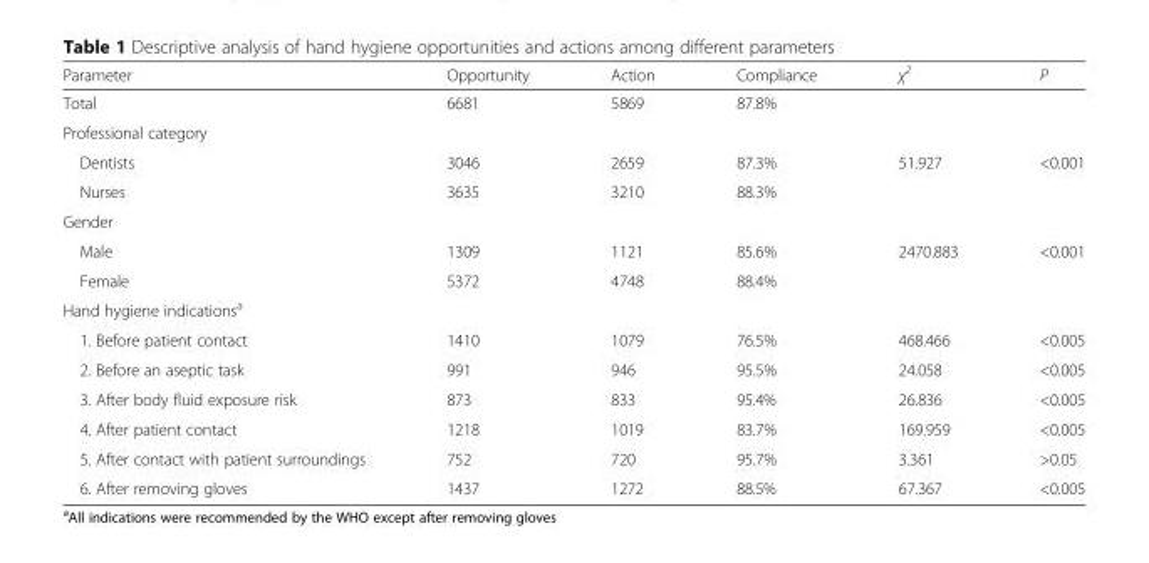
<table><thead><tr><td>Parameter</td><td>Opportunity</td><td>Action</td><td>Compliance</td><td>χ<sup>2</sup></td><td>P</td></tr></thead><tbody><tr><td>Total</td><td>6681</td><td>5869</td><td>87.8%</td><td></td><td></td></tr><tr><td colspan="6">Professional category</td></tr><tr><td>Dentists</td><td>3046</td><td>2659</td><td>87.3%</td><td rowspan="2">51.927</td><td rowspan="2">&lt;0.001</td></tr><tr><td>Nurses</td><td>3635</td><td>3210</td><td>88.3%</td></tr><tr><td colspan="6">Gender</td></tr><tr><td>Male</td><td>1309</td><td>1121</td><td>85.6%</td><td rowspan="2">2470.883</td><td rowspan="2">&lt;0.001</td></tr><tr><td>Female</td><td>5372</td><td>4748</td><td>88.4%</td></tr><tr><td colspan="6">Hand hygiene indications<sup>a</sup></td></tr><tr><td>1. Before patient contact</td><td>1410</td><td>1079</td><td>76.5%</td><td>468.466</td><td>&lt;0.005</td></tr><tr><td>2. Before an aseptic task</td><td>991</td><td>946</td><td>95.5%</td><td>24.058</td><td>&lt;0.005</td></tr><tr><td>3. After body fluid exposure risk</td><td>873</td><td>833</td><td>95.4%</td><td>26.836</td><td>&lt;0.005</td></tr><tr><td>4. After patient contact</td><td>1218</td><td>1019</td><td>83.7%</td><td>169.959</td><td>&lt;0.005</td></tr><tr><td>5. After contact with patient surroundings</td><td>752</td><td>720</td><td>95.7%</td><td>3.361</td><td>&gt;0.05</td></tr><tr><td>6. After removing gloves</td><td>1437</td><td>1272</td><td>88.5%</td><td>67.367</td><td>&lt;0.005</td></tr></tbody></table>